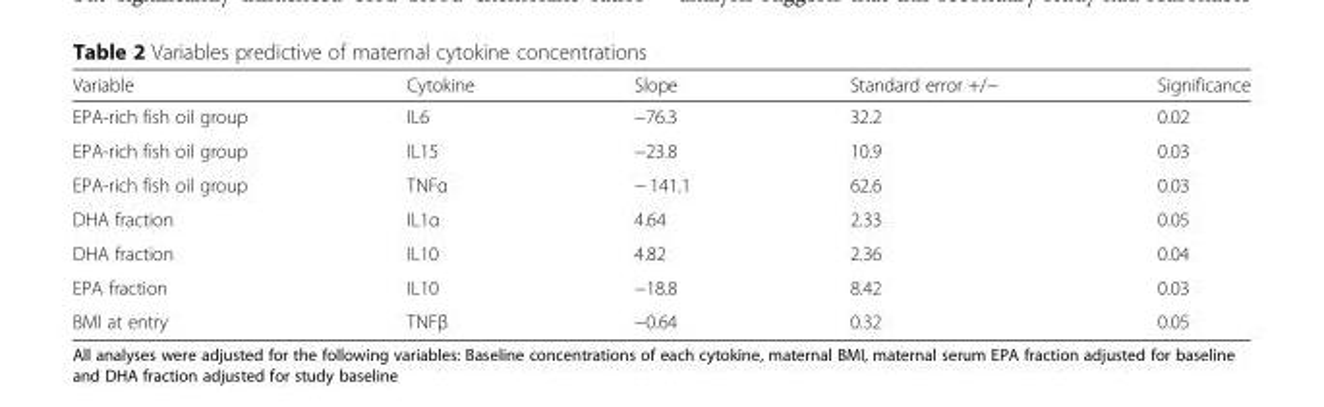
<table><thead><tr><td>Variable</td><td>Cytokine</td><td>Slope</td><td>Standard error +/−</td><td>Significance</td></tr></thead><tbody><tr><td>EPA-rich fish oil group</td><td>IL6</td><td>−76.3</td><td>32.2</td><td>0.02</td></tr><tr><td>EPA-rich fish oil group</td><td>IL15</td><td>−23.8</td><td>10.9</td><td>0.03</td></tr><tr><td>EPA-rich fish oil group</td><td>TNFα</td><td>− 141.1</td><td>62.6</td><td>0.03</td></tr><tr><td>DHA fraction</td><td>IL1α</td><td>4.64</td><td>2.33</td><td>0.05</td></tr><tr><td>DHA fraction</td><td>IL10</td><td>4.82</td><td>2.36</td><td>0.04</td></tr><tr><td>EPA fraction</td><td>IL10</td><td>−18.8</td><td>8.42</td><td>0.03</td></tr><tr><td>BMI at entry</td><td>TNFβ</td><td>−0.64</td><td>0.32</td><td>0.05</td></tr></tbody></table>